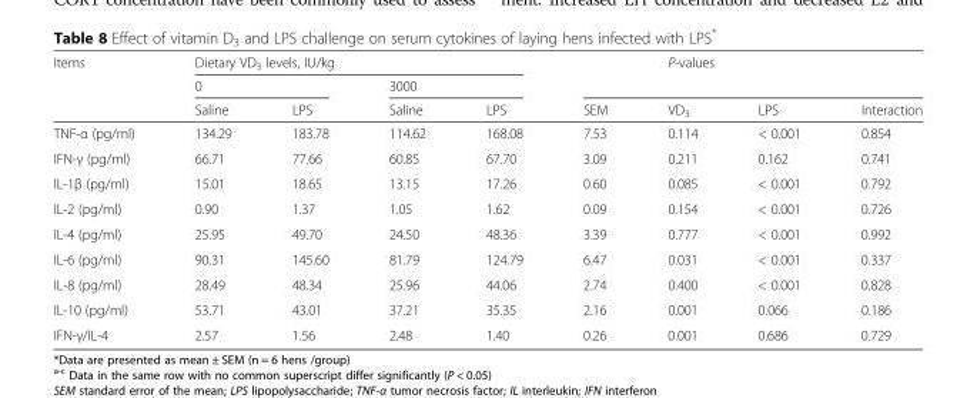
<table><thead><tr><td rowspan="3">Items</td><td colspan="4">Dietary VD<sub>3</sub> levels, IU/kg</td><td rowspan="3">SEM</td><td rowspan="2" colspan="3">P-values</td></tr><tr><td colspan="2">0</td><td colspan="2">3000</td></tr><tr><td>Saline</td><td>LPS</td><td>Saline</td><td>LPS</td><td>VD<sub>3</sub></td><td>LPS</td><td>Interaction</td></tr></thead><tbody><tr><td>TNF-α (pg/ml)</td><td>134.29</td><td>183.78</td><td>114.62</td><td>168.08</td><td>7.53</td><td>0.114</td><td>&lt; 0.001</td><td>0.854</td></tr><tr><td>IFN-γ (pg/ml)</td><td>66.71</td><td>77.66</td><td>60.85</td><td>67.70</td><td>3.09</td><td>0.211</td><td>0.162</td><td>0.741</td></tr><tr><td>IL-1β (pg/ml)</td><td>15.01</td><td>18.65</td><td>13.15</td><td>17.26</td><td>0.60</td><td>0.085</td><td>&lt; 0.001</td><td>0.792</td></tr><tr><td>IL-2 (pg/ml)</td><td>0.90</td><td>1.37</td><td>1.05</td><td>1.62</td><td>0.09</td><td>0.154</td><td>&lt; 0.001</td><td>0.726</td></tr><tr><td>IL-4 (pg/ml)</td><td>25.95</td><td>49.70</td><td>24.50</td><td>48.36</td><td>3.39</td><td>0.777</td><td>&lt; 0.001</td><td>0.992</td></tr><tr><td>IL-6 (pg/ml)</td><td>90.31</td><td>145.60</td><td>81.79</td><td>124.79</td><td>6.47</td><td>0.031</td><td>&lt; 0.001</td><td>0.337</td></tr><tr><td>IL-8 (pg/ml)</td><td>28.49</td><td>48.34</td><td>25.96</td><td>44.06</td><td>2.74</td><td>0.400</td><td>&lt; 0.001</td><td>0.828</td></tr><tr><td>IL-10 (pg/ml)</td><td>53.71</td><td>43.01</td><td>37.21</td><td>35.35</td><td>2.16</td><td>0.001</td><td>0.066</td><td>0.186</td></tr><tr><td>IFN-γ/IL-4</td><td>2.57</td><td>1.56</td><td>2.48</td><td>1.40</td><td>0.26</td><td>0.001</td><td>0.686</td><td>0.729</td></tr></tbody></table>